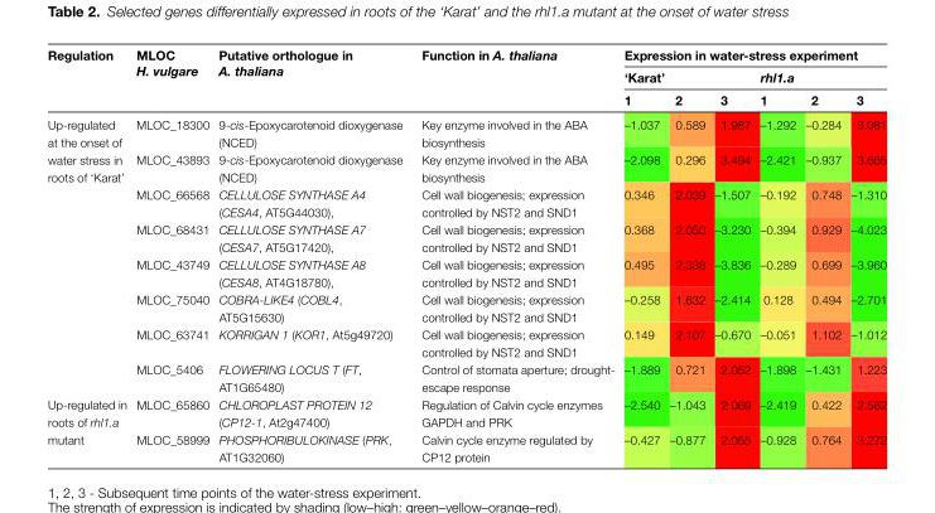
<table><thead><tr><td rowspan="3">Regulation</td><td rowspan="3">MLOC H. vulgare</td><td rowspan="3">Putative orthologue in A. thaliana</td><td rowspan="3">Function in A. thaliana</td><td colspan="6">Expression in water-stress experiment</td></tr><tr><td colspan="3">‘Karat’</td><td colspan="3">rhl1.a</td></tr><tr><td>1</td><td>2</td><td>3</td><td>1</td><td>2</td><td>3</td></tr></thead><tbody><tr><td rowspan="8">Up-regulated at the onset of water stress in roots of ‘Karat’</td><td>MLOC_18300</td><td>9-cis-Epoxycarotenoid dioxygenase (NCED)</td><td>Key enzyme involved in the ABA biosynthesis</td><td>–1.037</td><td>0.589</td><td>1.987</td><td>–1.292</td><td>–0.284</td><td>3.081</td></tr><tr><td>MLOC_43893</td><td>9-cis-Epoxycarotenoid dioxygenase (NCED)</td><td>Key enzyme involved in the ABA biosynthesis</td><td>–2.098</td><td>0.296</td><td>3.494</td><td>–2.421</td><td>–0.937</td><td>3.665</td></tr><tr><td>MLOC_66568</td><td>CELLULOSE SYNTHASE A4 (CESA4, AT5G44030),</td><td>Cell wall biogenesis; expression controlled by NST2 and SND1</td><td>0.346</td><td>2.039</td><td>–1.507</td><td>–0.192</td><td>0.748</td><td>–1.310</td></tr><tr><td>MLOC_68431</td><td>CELLULOSE SYNTHASE A7 (CESA7, AT5G17420),</td><td>Cell wall biogenesis; expression controlled by NST2 and SND1</td><td>0.368</td><td>2.050</td><td>–3.230</td><td>–0.394</td><td>0.929</td><td>–4.023</td></tr><tr><td>MLOC_43749</td><td>CELLULOSE SYNTHASE A8 (CESA8, AT4G18780),</td><td>Cell wall biogenesis; expression controlled by NST2 and SND1</td><td>0.495</td><td>2.338</td><td>–3.836</td><td>–0.289</td><td>0.699</td><td>–3.960</td></tr><tr><td>MLOC_75040</td><td>COBRA-LIKE4 (COBL4, AT5G15630)</td><td>Cell wall biogenesis; expression controlled by NST2 and SND1</td><td>–0.258</td><td>1.632</td><td>–2.414</td><td>0.128</td><td>0.494</td><td>–2.701</td></tr><tr><td>MLOC_63741</td><td>KORRIGAN 1 (KOR1, At5g49720)</td><td>Cell wall biogenesis; expression controlled by NST2 and SND1</td><td>0.149</td><td>2.107</td><td>–0.670</td><td>–0.051</td><td>1.102</td><td>–1.012</td></tr><tr><td>MLOC_5406</td><td>FLOWERING LOCUS T (FT, AT1G65480)</td><td>Control of stomata aperture; drought- escape response</td><td>–1.889</td><td>0.721</td><td>2.052</td><td>–1.898</td><td>–1.431</td><td>1.223</td></tr><tr><td rowspan="2">Up-regulated in roots of rhl1.a mutant</td><td>MLOC_65860</td><td>CHLOROPLAST PROTEIN 12 (CP12-1, At2g47400)</td><td>Regulation of Calvin cycle enzymes GAPDH and PRK</td><td>–2.540</td><td>–1.043</td><td>2.069</td><td>–2.419</td><td>0.422</td><td>2.562</td></tr><tr><td>MLOC_58999</td><td>PHOSPHORIBULOKINASE (PRK, AT1G32060)</td><td>Calvin cycle enzyme regulated by CP12 protein</td><td>–0.427</td><td>–0.877</td><td>2.055</td><td>–0.928</td><td>0.764</td><td>3.272</td></tr></tbody></table>